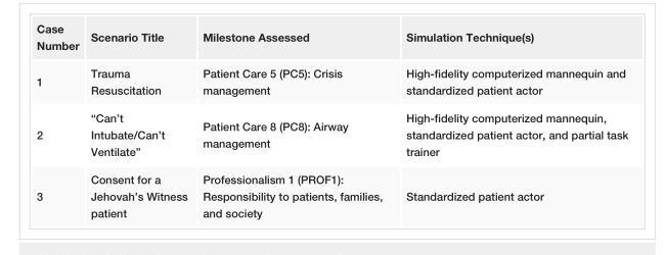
<table><tbody><tr><td>Number</td><td>Scenario Title</td><td>Milestone Assessed</td><td>Simulation Technique(s)</td></tr><tr><td>1</td><td>Trauma Resuscitation</td><td>Patient Care 5 (PC5): Crisis management</td><td>High-fidelity computerized mannequin and standardized patient actor</td></tr><tr><td>2</td><td>“Can’t Intubate/Can’t Ventilate”</td><td>Patient Care 8 (PC8): Airway management</td><td>High-fidelity computerized mannequin, standardized patient actor, and partial task trainer</td></tr><tr><td>3</td><td>Consent for a Jehovah’s Witness patient</td><td>Professionalism 1 (PROF1): Responsibility to patients, families, and society</td><td>Standardized patient actor</td></tr></tbody></table>